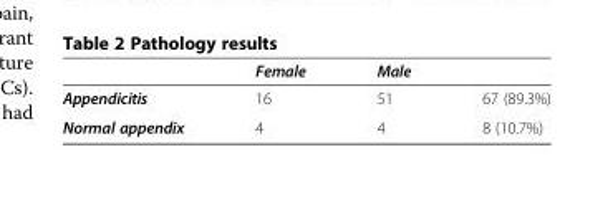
<table><thead><tr><td></td><td>Female</td><td>Male</td><td></td></tr></thead><tbody><tr><td>Appendicitis</td><td>16</td><td>51</td><td>67 (89.3%)</td></tr><tr><td>Normal appendix</td><td>4</td><td>4</td><td>8 (10.7%)</td></tr></tbody></table>